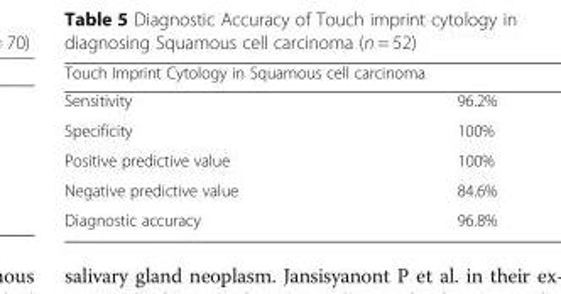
<table><thead><tr><td colspan="2">Touch Imprint Cytology in Squamous cell carcinoma</td></tr><tr><td>Sensitivity</td><td>96.2%</td></tr></thead><tbody><tr><td>Specificity</td><td>100%</td></tr><tr><td>Positive predictive value</td><td>100%</td></tr><tr><td>Negative predictive value</td><td>84.6%</td></tr><tr><td>Diagnostic accuracy</td><td>96.8%</td></tr></tbody></table>